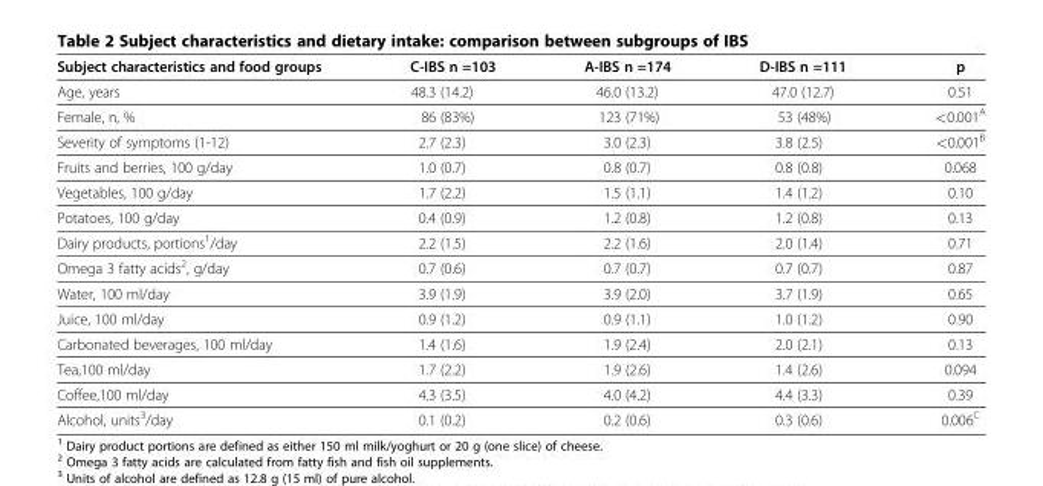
<table><thead><tr><td>Subject characteristics and food groups</td><td>C-IBS n =103</td><td>A-IBS n =174</td><td>D-IBS n =111</td><td>p</td></tr></thead><tbody><tr><td>Age, years</td><td>48.3 (14.2)</td><td>46.0 (13.2)</td><td>47.0 (12.7)</td><td>0.51</td></tr><tr><td>Female, n, %</td><td>86 (83%)</td><td>123 (71%)</td><td>53 (48%)</td><td>&lt;0.001<sup>A</sup></td></tr><tr><td>Severity of symptoms (1-12)</td><td>2.7 (2.3)</td><td>3.0 (2.3)</td><td>3.8 (2.5)</td><td>&lt;0.001<sup>B</sup></td></tr><tr><td>Fruits and berries, 100 g/day</td><td>1.0 (0.7)</td><td>0.8 (0.7)</td><td>0.8 (0.8)</td><td>0.068</td></tr><tr><td>Vegetables, 100 g/day</td><td>1.7 (2.2)</td><td>1.5 (1.1)</td><td>1.4 (1.2)</td><td>0.10</td></tr><tr><td>Potatoes, 100 g/day</td><td>0.4 (0.9)</td><td>1.2 (0.8)</td><td>1.2 (0.8)</td><td>0.13</td></tr><tr><td>Dairy products, portions<sup>1</sup>/day</td><td>2.2 (1.5)</td><td>2.2 (1.6)</td><td>2.0 (1.4)</td><td>0.71</td></tr><tr><td>Omega 3 fatty acids<sup>2</sup>, g/day</td><td>0.7 (0.6)</td><td>0.7 (0.7)</td><td>0.7 (0.7)</td><td>0.87</td></tr><tr><td>Water, 100 ml/day</td><td>3.9 (1.9)</td><td>3.9 (2.0)</td><td>3.7 (1.9)</td><td>0.65</td></tr><tr><td>Juice, 100 ml/day</td><td>0.9 (1.2)</td><td>0.9 (1.1)</td><td>1.0 (1.2)</td><td>0.90</td></tr><tr><td>Carbonated beverages, 100 ml/day</td><td>1.4 (1.6)</td><td>1.9 (2.4)</td><td>2.0 (2.1)</td><td>0.13</td></tr><tr><td>Tea,100 ml/day</td><td>1.7 (2.2)</td><td>1.9 (2.6)</td><td>1.4 (2.6)</td><td>0.094</td></tr><tr><td>Coffee,100 ml/day</td><td>4.3 (3.5)</td><td>4.0 (4.2)</td><td>4.4 (3.3)</td><td>0.39</td></tr><tr><td>Alcohol, units<sup>3</sup>/day</td><td>0.1 (0.2)</td><td>0.2 (0.6)</td><td>0.3 (0.6)</td><td>0.006<sup>C</sup></td></tr></tbody></table>